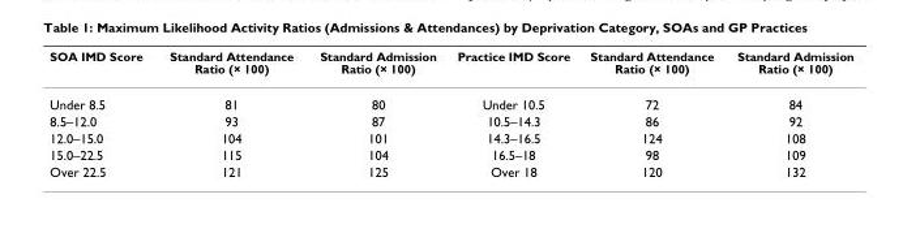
<table><thead><tr><td>SOA IMD Score</td><td>Standard Attendance Ratio (× 100)</td><td>Standard Admission Ratio (× 100)</td><td>Practice IMD Score</td><td>Standard Attendance Ratio (× 100)</td><td>Standard Admission Ratio (× 100)</td></tr></thead><tbody><tr><td>Under 8.5</td><td>81</td><td>80</td><td>Under 10.5</td><td>72</td><td>84</td></tr><tr><td>8.5–12.0</td><td>93</td><td>87</td><td>10.5–14.3</td><td>86</td><td>92</td></tr><tr><td>12.0–15.0</td><td>104</td><td>101</td><td>14.3–16.5</td><td>124</td><td>108</td></tr><tr><td>15.0–22.5</td><td>115</td><td>104</td><td>16.5–18</td><td>98</td><td>109</td></tr><tr><td>Over 22.5</td><td>121</td><td>125</td><td>Over 18</td><td>120</td><td>132</td></tr></tbody></table>